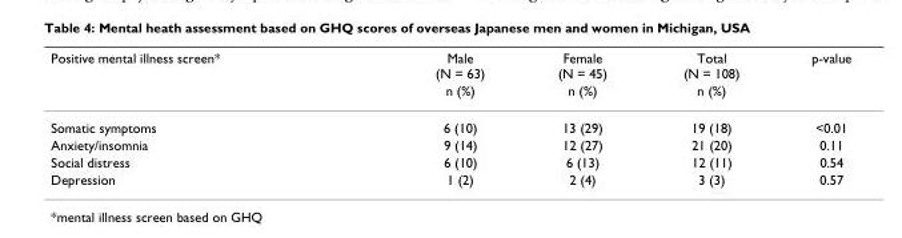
<table><thead><tr><td rowspan="2">Positive mental illness screen*</td><td rowspan="2">Male (N = 63) n (%)</td><td rowspan="2">Female (N = 45) n (%)</td><td rowspan="2">Total (N = 108) n (%)</td><td rowspan="2">p-value</td></tr><tr></tr></thead><tbody><tr><td>Somatic symptoms</td><td>6 (10)</td><td>13 (29)</td><td>19 (18)</td><td>&lt;0.01</td></tr><tr><td>Anxiety/insomnia</td><td>9 (14)</td><td>12 (27)</td><td>21 (20)</td><td>0.11</td></tr><tr><td>Social distress</td><td>6 (10)</td><td>6 (13)</td><td>12 (11)</td><td>0.54</td></tr><tr><td>Depression</td><td>1 (2)</td><td>2 (4)</td><td>3 (3)</td><td>0.57</td></tr></tbody></table>